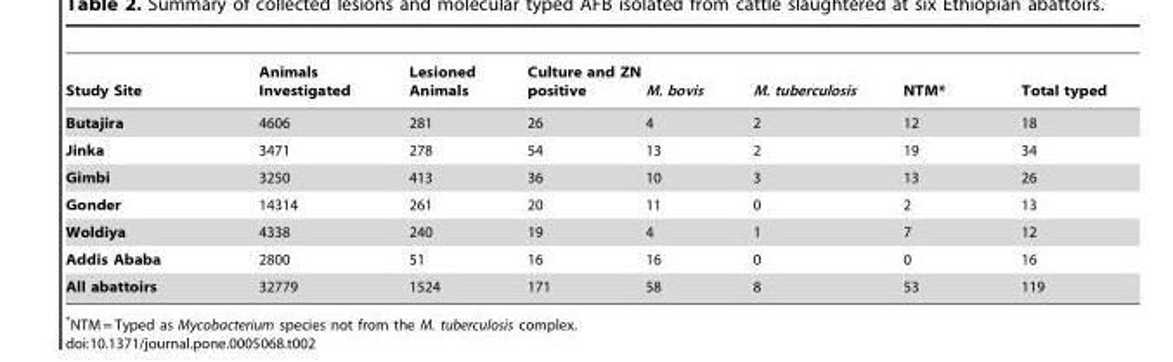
<table><thead><tr><td>Study Site</td><td>Animals Investigated</td><td>Lesioned Animals</td><td>Culture and ZN positive</td><td>M. bovis</td><td>M. tuberculosis</td><td>NTM*</td><td>Total typed</td></tr></thead><tbody><tr><td>Butajira</td><td>4606</td><td>281</td><td>26</td><td>4</td><td>2</td><td>12</td><td>18</td></tr><tr><td>Jinka</td><td>3471</td><td>278</td><td>54</td><td>13</td><td>2</td><td>19</td><td>34</td></tr><tr><td>Gimbi</td><td>3250</td><td>413</td><td>36</td><td>10</td><td>3</td><td>13</td><td>26</td></tr><tr><td>Gonder</td><td>14314</td><td>261</td><td>20</td><td>11</td><td>0</td><td>2</td><td>13</td></tr><tr><td>Woldiya</td><td>4338</td><td>240</td><td>19</td><td>4</td><td>1</td><td>7</td><td>12</td></tr><tr><td>Addis Ababa</td><td>2800</td><td>51</td><td>16</td><td>16</td><td>0</td><td>0</td><td>16</td></tr><tr><td>All abattoirs</td><td>32779</td><td>1524</td><td>171</td><td>58</td><td>8</td><td>53</td><td>119</td></tr></tbody></table>